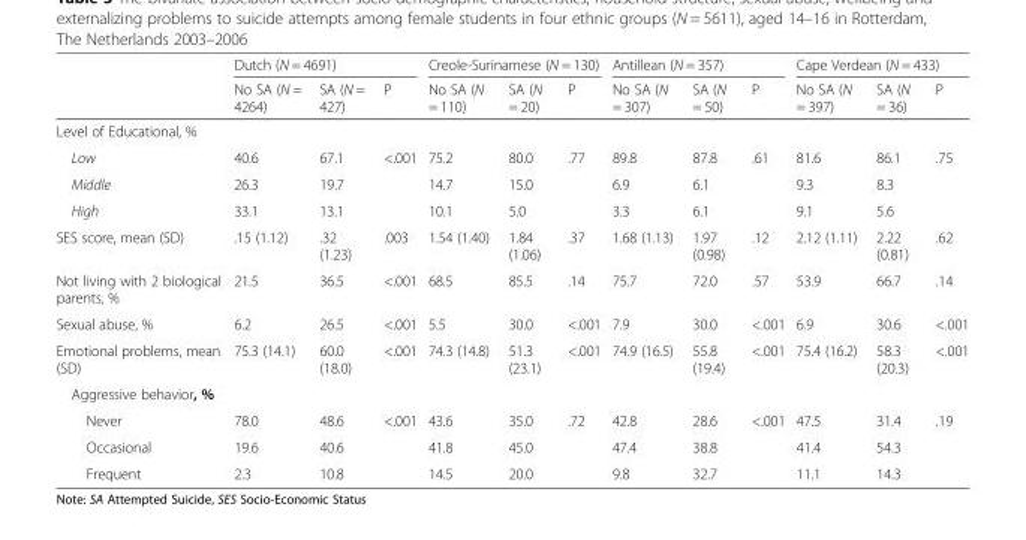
<table><thead><tr><td rowspan="2"></td><td colspan="3">Dutch (N = 4691)</td><td colspan="3">Creole-Surinamese (N = 130)</td><td colspan="3">Antillean (N = 357)</td><td colspan="3">Cape Verdean (N = 433)</td></tr><tr><td>No SA (N = 4264)</td><td>SA (N = 427)</td><td>P</td><td>No SA (N = 110)</td><td>SA (N = 20)</td><td>P</td><td>No SA (N = 307)</td><td>SA (N = 50)</td><td>P</td><td>No SA (N = 397)</td><td>SA (N = 36)</td><td>P</td></tr></thead><tbody><tr><td colspan="13">Level of Educational, %</td></tr><tr><td>Low</td><td>40.6</td><td>67.1</td><td>&lt;.001</td><td>75.2</td><td>80.0</td><td>.77</td><td>89.8</td><td>87.8</td><td>.61</td><td>81.6</td><td>86.1</td><td>.75</td></tr><tr><td>Middle</td><td>26.3</td><td>19.7</td><td></td><td>14.7</td><td>15.0</td><td></td><td>6.9</td><td>6.1</td><td></td><td>9.3</td><td>8.3</td><td></td></tr><tr><td>High</td><td>33.1</td><td>13.1</td><td></td><td>10.1</td><td>5.0</td><td></td><td>3.3</td><td>6.1</td><td></td><td>9.1</td><td>5.6</td><td></td></tr><tr><td>SES score, mean (SD)</td><td>.15 (1.12)</td><td>.32 (1.23)</td><td>.003</td><td>1.54 (1.40)</td><td>1.84 (1.06)</td><td>.37</td><td>1.68 (1.13)</td><td>1.97 (0.98)</td><td>.12</td><td>2.12 (1.11)</td><td>2.22 (0.81)</td><td>.62</td></tr><tr><td>Not living with 2 biological parents, %</td><td>21.5</td><td>36.5</td><td>&lt;.001</td><td>68.5</td><td>85.5</td><td>.14</td><td>75.7</td><td>72.0</td><td>.57</td><td>53.9</td><td>66.7</td><td>.14</td></tr><tr><td>Sexual abuse, %</td><td>6.2</td><td>26.5</td><td>&lt;.001</td><td>5.5</td><td>30.0</td><td>&lt;.001</td><td>7.9</td><td>30.0</td><td>&lt;.001</td><td>6.9</td><td>30.6</td><td>&lt;.001</td></tr><tr><td>Emotional problems, mean (SD)</td><td>75.3 (14.1)</td><td>60.0 (18.0)</td><td>&lt;.001</td><td>74.3 (14.8)</td><td>51.3 (23.1)</td><td>&lt;.001</td><td>74.9 (16.5)</td><td>55.8 (19.4)</td><td>&lt;.001</td><td>75.4 (16.2)</td><td>58.3 (20.3)</td><td>&lt;.001</td></tr><tr><td colspan="13">Aggressive behavior, %</td></tr><tr><td>Never</td><td>78.0</td><td>48.6</td><td>&lt;.001</td><td>43.6</td><td>35.0</td><td>.72</td><td>42.8</td><td>28.6</td><td>&lt;.001</td><td>47.5</td><td>31.4</td><td>.19</td></tr><tr><td>Occasional</td><td>19.6</td><td>40.6</td><td></td><td>41.8</td><td>45.0</td><td></td><td>47.4</td><td>38.8</td><td></td><td>41.4</td><td>54.3</td><td></td></tr><tr><td>Frequent</td><td>2.3</td><td>10.8</td><td></td><td>14.5</td><td>20.0</td><td></td><td>9.8</td><td>32.7</td><td></td><td>11.1</td><td>14.3</td><td></td></tr></tbody></table>